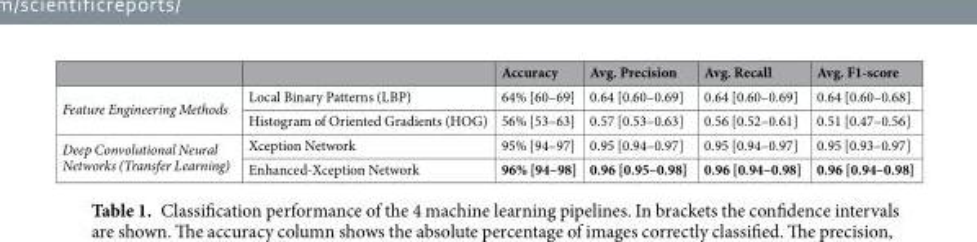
<table><thead><tr><td></td><td></td><td>Accuracy</td><td>Avg. Precision</td><td>Avg. Recall</td><td>Avg. F1-score</td></tr></thead><tbody><tr><td rowspan="2">Feature Engineering Methods</td><td>Local Binary Patterns (LBP)</td><td>64% [60–69]</td><td>0.64 [0.60–0.69]</td><td>0.64 [0.60–0.69]</td><td>0.64 [0.60–0.68]</td></tr><tr><td>Histogram of Oriented Gradients (HOG)</td><td>56% [53–63]</td><td>0.57 [0.53–0.63]</td><td>0.56 [0.52–0.61]</td><td>0.51 [0.47–0.56]</td></tr><tr><td rowspan="2">Deep Convolutional Neural Networks (Transfer Learning)</td><td>Xception Network</td><td>95% [94–97]</td><td>0.95 [0.94–0.97]</td><td>0.95 [0.94–0.97]</td><td>0.95 [0.93–0.97]</td></tr><tr><td>Enhanced-Xception Network</td><td>96% [94–98]</td><td>0.96 [0.95–0.98]</td><td>0.96 [0.94–0.98]</td><td>0.96 [0.94–0.98]</td></tr></tbody></table>